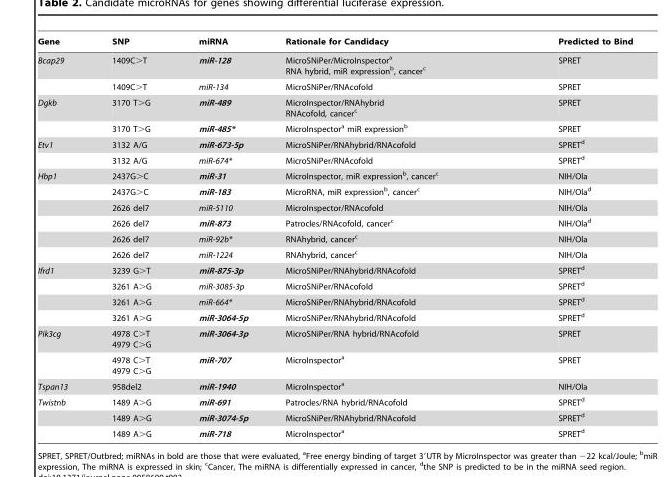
<table><thead><tr><td>Gene</td><td>SNP</td><td>miRNA</td><td>Rationale for Candidacy</td><td>Predicted to Bind</td></tr></thead><tbody><tr><td rowspan="2">Bcap29</td><td>1409C&gt;T</td><td>miR-128</td><td>MicroSNiPer/MicroInspector<sup>a</sup> RNA hybrid, miR expression<sup>b</sup>, cancer<sup>c</sup></td><td>SPRET</td></tr><tr><td>1409C&gt;T</td><td>miR-134</td><td>MicroSNiPer/RNAcofold</td><td>SPRET</td></tr><tr><td rowspan="2">Dgkb</td><td>3170 T&gt;G</td><td>miR-489</td><td>MicroInspector/RNAhybrid RNAcofold, cancer<sup>c</sup></td><td>SPRET</td></tr><tr><td>3170 T&gt;G</td><td>miR-485*</td><td>MicroInspector<sup>a</sup> miR expression<sup>b</sup></td><td>SPRET</td></tr><tr><td rowspan="2">Etv1</td><td>3132 A/G</td><td>miR-673-5p</td><td>MicroSNiPer/RNAhybrid/RNAcofold</td><td>SPRET<sup>d</sup></td></tr><tr><td>3132 A/G</td><td>miR-674*</td><td>MicroSNiPer/RNAcofold</td><td>SPRET<sup>d</sup></td></tr><tr><td rowspan="6">Hbp1</td><td>2437G&gt;C</td><td>miR-31</td><td>MicroInspector, miR expression<sup>b</sup>, cancer<sup>c</sup></td><td>NIH/Ola</td></tr><tr><td>2437G&gt;C</td><td>miR-183</td><td>MicroRNA, miR expression<sup>b</sup>, cancer<sup>c</sup></td><td>NIH/Ola<sup>d</sup></td></tr><tr><td>2626 del7</td><td>miR-5110</td><td>MicroInspector/RNAcofold</td><td>NIH/Ola</td></tr><tr><td>2626 del7</td><td>miR-873</td><td>Patrocles/RNAcofold, cancer<sup>c</sup></td><td>NIH/Ola<sup>d</sup></td></tr><tr><td>2626 del7</td><td>miR-92b*</td><td>RNAhybrid, cancer<sup>c</sup></td><td>NIH/Ola</td></tr><tr><td>2626 del7</td><td>miR-1224</td><td>RNAhybrid, cancer<sup>c</sup></td><td>NIH/Ola</td></tr><tr><td rowspan="4">Ifrd1</td><td>3239 G&gt;T</td><td>miR-875-3p</td><td>MicroSNiPer/RNAhybrid/RNAcofold</td><td>SPRET<sup>d</sup></td></tr><tr><td>3261 A&gt;G</td><td>miR-3085-3p</td><td>MicroSNiPer/RNAcofold</td><td>SPRET<sup>d</sup></td></tr><tr><td>3261 A&gt;G</td><td>miR-664*</td><td>MicroSNiPer/RNAhybrid/RNAcofold</td><td>SPRET<sup>d</sup></td></tr><tr><td>3261 A&gt;G</td><td>miR-3064-5p</td><td>MicroSNiPer/RNAhybrid/RNAcofold</td><td>SPRET<sup>d</sup></td></tr><tr><td rowspan="2">Pik3cg</td><td>4978 C&gt;T 4979 C&gt;G</td><td>miR-3064-3p</td><td>MicroSNiPer/RNA hybrid/RNAcofold</td><td>SPRET</td></tr><tr><td>4978 C&gt;T 4979 C&gt;G</td><td>miR-707</td><td>MicroInspector<sup>a</sup></td><td>SPRET</td></tr><tr><td>Tspan13</td><td>958del2</td><td>miR-1940</td><td>MicroInspector<sup>a</sup></td><td>NIH/Ola</td></tr><tr><td rowspan="3">Twistnb</td><td>1489 A&gt;G</td><td>miR-691</td><td>Patrocles/RNA hybrid/RNAcofold</td><td>SPRET<sup>d</sup></td></tr><tr><td>1489 A&gt;G</td><td>miR-3074-5p</td><td>MicroSNiPer/RNAhybrid/RNAcofold</td><td>SPRET<sup>d</sup></td></tr><tr><td>1489 A&gt;G</td><td>miR-718</td><td>MicroInspector<sup>a</sup></td><td>SPRET<sup>d</sup></td></tr></tbody></table>